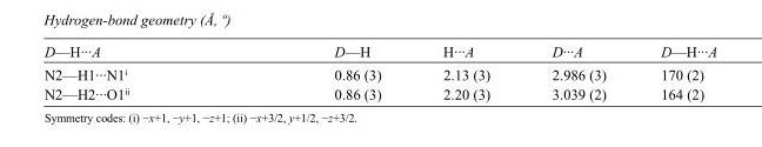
<table><tbody><tr><td>D—H···A</td><td>D—H</td><td>H···A</td><td>D···A</td><td>D—H···A</td></tr><tr><td>N2—H1···N1<sup>i</sup></td><td>0.86 (3)</td><td>2.13 (3)</td><td>2.986 (3)</td><td>170 (2)</td></tr><tr><td>N2—H2···O1<sup>ii</sup></td><td>0.86 (3)</td><td>2.20 (3)</td><td>3.039 (2)</td><td>164 (2)</td></tr></tbody></table>